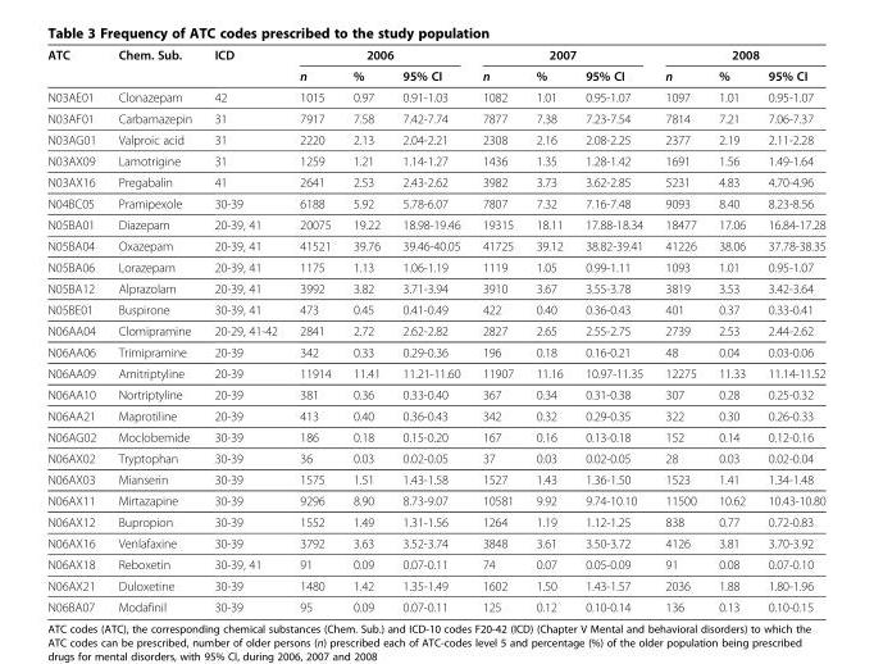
<table><thead><tr><td rowspan="2">ATC</td><td rowspan="2">Chem. Sub.</td><td rowspan="2">ICD</td><td colspan="3">2006</td><td colspan="3">2007</td><td colspan="3">2008</td></tr><tr><td>n</td><td>%</td><td>95% CI</td><td>n</td><td>%</td><td>95% CI</td><td>n</td><td>%</td><td>95% CI</td></tr></thead><tbody><tr><td>N03AE01</td><td>Clonazepam</td><td>42</td><td>1015</td><td>0.97</td><td>0.91-1.03</td><td>1082</td><td>1.01</td><td>0.95-1.07</td><td>1097</td><td>1.01</td><td>0.95-1.07</td></tr><tr><td>N03AF01</td><td>Carbamazepin</td><td>31</td><td>7917</td><td>7.58</td><td>7.42-7.74</td><td>7877</td><td>7.38</td><td>7.23-7.54</td><td>7814</td><td>7.21</td><td>7.06-7.37</td></tr><tr><td>N03AG01</td><td>Valproic acid</td><td>31</td><td>2220</td><td>2.13</td><td>2.04-2.21</td><td>2308</td><td>2.16</td><td>2.08-2.25</td><td>2377</td><td>2.19</td><td>2.11-2.28</td></tr><tr><td>N03AX09</td><td>Lamotrigine</td><td>31</td><td>1259</td><td>1.21</td><td>1.14-1.27</td><td>1436</td><td>1.35</td><td>1.28-1.42</td><td>1691</td><td>1.56</td><td>1.49-1.64</td></tr><tr><td>N03AX16</td><td>Pregabalin</td><td>41</td><td>2641</td><td>2.53</td><td>2.43-2.62</td><td>3982</td><td>3.73</td><td>3.62-2.85</td><td>5231</td><td>4.83</td><td>4.70-4.96</td></tr><tr><td>N04BC05</td><td>Pramipexole</td><td>30-39</td><td>6188</td><td>5.92</td><td>5.78-6.07</td><td>7807</td><td>7.32</td><td>7.16-7.48</td><td>9093</td><td>8.40</td><td>8.23-8.56</td></tr><tr><td>N05BA01</td><td>Diazepam</td><td>20-39, 41</td><td>20075</td><td>19.22</td><td>18.98-19.46</td><td>19315</td><td>18.11</td><td>17.88-18.34</td><td>18477</td><td>17.06</td><td>16.84-17.28</td></tr><tr><td>N05BA04</td><td>Oxazepam</td><td>20-39, 41</td><td>41521</td><td>39.76</td><td>39.46-40.05</td><td>41725</td><td>39.12</td><td>38.82-39.41</td><td>41226</td><td>38.06</td><td>37.78-38.35</td></tr><tr><td>N05BA06</td><td>Lorazepam</td><td>20-39, 41</td><td>1175</td><td>1.13</td><td>1.06-1.19</td><td>1119</td><td>1.05</td><td>0.99-1.11</td><td>1093</td><td>1.01</td><td>0.95-1.07</td></tr><tr><td>N05BA12</td><td>Alprazolam</td><td>20-39, 41</td><td>3992</td><td>3.82</td><td>3.71-3.94</td><td>3910</td><td>3.67</td><td>3.55-3.78</td><td>3819</td><td>3.53</td><td>3.42-3.64</td></tr><tr><td>N05BE01</td><td>Buspirone</td><td>30-39, 41</td><td>473</td><td>0.45</td><td>0.41-0.49</td><td>422</td><td>0.40</td><td>0.36-0.43</td><td>401</td><td>0.37</td><td>0.33-0.41</td></tr><tr><td>N06AA04</td><td>Clomipramine</td><td>20-29, 41-42</td><td>2841</td><td>2.72</td><td>2.62-2.82</td><td>2827</td><td>2.65</td><td>2.55-2.75</td><td>2739</td><td>2.53</td><td>2.44-2.62</td></tr><tr><td>N06AA06</td><td>Trimipramine</td><td>20-39</td><td>342</td><td>0.33</td><td>0.29-0.36</td><td>196</td><td>0.18</td><td>0.16-0.21</td><td>48</td><td>0.04</td><td>0.03-0.06</td></tr><tr><td>N06AA09</td><td>Amitriptyline</td><td>20-39</td><td>11914</td><td>11.41</td><td>11.21-11.60</td><td>11907</td><td>11.16</td><td>10.97-11.35</td><td>12275</td><td>11.33</td><td>11.14-11.52</td></tr><tr><td>N06AA10</td><td>Nortriptyline</td><td>20-39</td><td>381</td><td>0.36</td><td>0.33-0.40</td><td>367</td><td>0.34</td><td>0.31-0.38</td><td>307</td><td>0.28</td><td>0.25-0.32</td></tr><tr><td>N06AA21</td><td>Maprotiline</td><td>20-39</td><td>413</td><td>0.40</td><td>0.36-0.43</td><td>342</td><td>0.32</td><td>0.29-0.35</td><td>322</td><td>0.30</td><td>0.26-0.33</td></tr><tr><td>N06AG02</td><td>Moclobemide</td><td>30-39</td><td>186</td><td>0.18</td><td>0.15-0.20</td><td>167</td><td>0.16</td><td>0.13-0.18</td><td>152</td><td>0.14</td><td>0.12-0.16</td></tr><tr><td>N06AX02</td><td>Tryptophan</td><td>30-39</td><td>36</td><td>0.03</td><td>0.02-0.05</td><td>37</td><td>0.03</td><td>0.02-0.05</td><td>28</td><td>0.03</td><td>0.02-0.04</td></tr><tr><td>N06AX03</td><td>Mianserin</td><td>30-39</td><td>1575</td><td>1.51</td><td>1.43-1.58</td><td>1527</td><td>1.43</td><td>1.36-1.50</td><td>1523</td><td>1.41</td><td>1.34-1.48</td></tr><tr><td>N06AX11</td><td>Mirtazapine</td><td>30-39</td><td>9296</td><td>8.90</td><td>8.73-9.07</td><td>10581</td><td>9.92</td><td>9.74-10.10</td><td>11500</td><td>10.62</td><td>10.43-10.80</td></tr><tr><td>N06AX12</td><td>Bupropion</td><td>30-39</td><td>1552</td><td>1.49</td><td>1.31-1.56</td><td>1264</td><td>1.19</td><td>1.12-1.25</td><td>838</td><td>0.77</td><td>0.72-0.83</td></tr><tr><td>N06AX16</td><td>Venlafaxine</td><td>30-39</td><td>3792</td><td>3.63</td><td>3.52-3.74</td><td>3848</td><td>3.61</td><td>3.50-3.72</td><td>4126</td><td>3.81</td><td>3.70-3.92</td></tr><tr><td>N06AX18</td><td>Reboxetin</td><td>30-39, 41</td><td>91</td><td>0.09</td><td>0.07-0.11</td><td>74</td><td>0.07</td><td>0.05-0.09</td><td>91</td><td>0.08</td><td>0.07-0.10</td></tr><tr><td>N06AX21</td><td>Duloxetine</td><td>30-39</td><td>1480</td><td>1.42</td><td>1.35-1.49</td><td>1602</td><td>1.50</td><td>1.43-1.57</td><td>2036</td><td>1.88</td><td>1.80-1.96</td></tr><tr><td>N06BA07</td><td>Modafinil</td><td>30-39</td><td>95</td><td>0.09</td><td>0.07-0.11</td><td>125</td><td>0.12</td><td>0.10-0.14</td><td>136</td><td>0.13</td><td>0.10-0.15</td></tr></tbody></table>